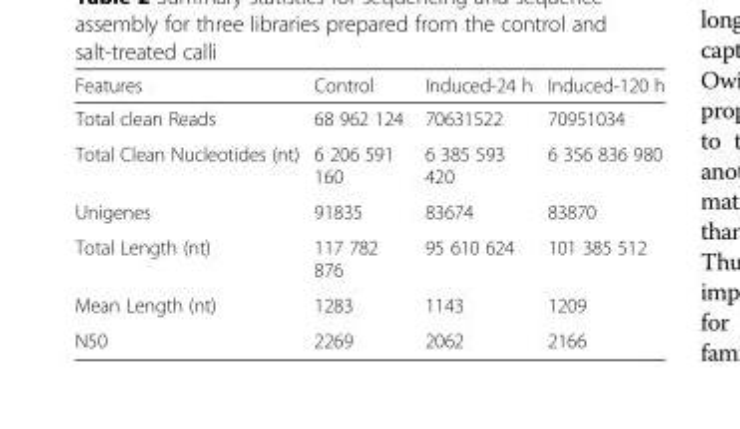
<table><thead><tr><td>Features</td><td>Control</td><td>Induced-24 h</td><td>Induced-120 h</td></tr></thead><tbody><tr><td>Total clean Reads</td><td>68 962 124</td><td>70631522</td><td>70951034</td></tr><tr><td>Total Clean Nucleotides (nt)</td><td>6 206 591 160</td><td>6 385 593 420</td><td>6 356 836 980</td></tr><tr><td>Unigenes</td><td>91835</td><td>83674</td><td>83870</td></tr><tr><td>Total Length (nt)</td><td>117 782 876</td><td>95 610 624</td><td>101 385 512</td></tr><tr><td>Mean Length (nt)</td><td>1283</td><td>1143</td><td>1209</td></tr><tr><td>N50</td><td>2269</td><td>2062</td><td>2166</td></tr></tbody></table>